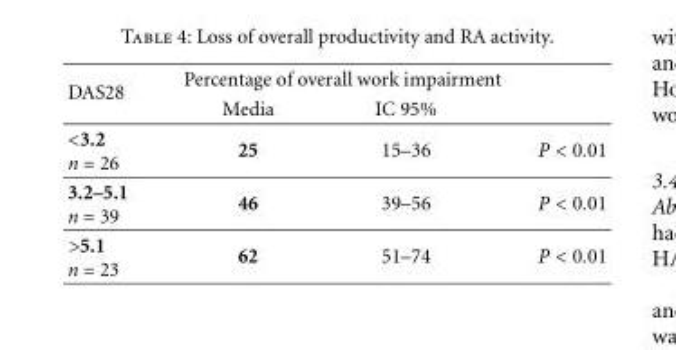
<table><thead><tr><td rowspan="2">DAS28</td><td colspan="2">Percentage of overall work impairment</td><td rowspan="2"></td></tr><tr><td>Media</td><td>IC 95%</td></tr></thead><tbody><tr><td>&lt;3.2 n = 26</td><td>25</td><td>15–36</td><td>P &lt; 0.01</td></tr><tr><td>3.2–5.1 n = 39</td><td>46</td><td>39–56</td><td>P &lt; 0.01</td></tr><tr><td>&gt;5.1 n = 23</td><td>62</td><td>51–74</td><td>P &lt; 0.01</td></tr></tbody></table>